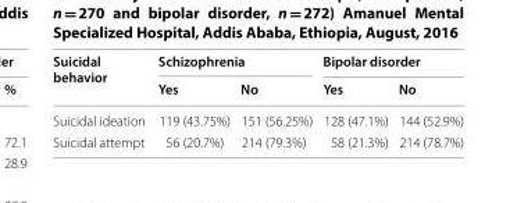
<table><thead><tr><td rowspan="2">Suicidal behavior</td><td colspan="2">Schizophrenia</td><td colspan="2">Bipolar disorder</td></tr><tr><td>Yes</td><td>No</td><td>Yes</td><td>No</td></tr></thead><tbody><tr><td>Suicidal ideation</td><td>119 (43.75%)</td><td>151 (56.25%)</td><td>128 (47.1%)</td><td>144 (52.9%)</td></tr><tr><td>Suicidal attempt</td><td>56 (20.7%)</td><td>214 (79.3%)</td><td>58 (21.3%)</td><td>214 (78.7%)</td></tr></tbody></table>